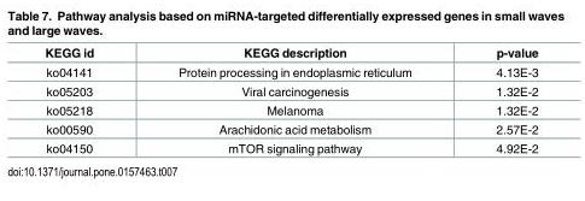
<table><thead><tr><td>KEGG id</td><td>KEGG description</td><td>p-value</td></tr></thead><tbody><tr><td>ko04141</td><td>Protein processing in endoplasmic reticulum</td><td>4.13E-3</td></tr><tr><td>ko05203</td><td>Viral carcinogenesis</td><td>1.32E-2</td></tr><tr><td>ko05218</td><td>Melanoma</td><td>1.32E-2</td></tr><tr><td>ko00590</td><td>Arachidonic acid metabolism</td><td>2.57E-2</td></tr><tr><td>ko04150</td><td>mTOR signaling pathway</td><td>4.92E-2</td></tr></tbody></table>